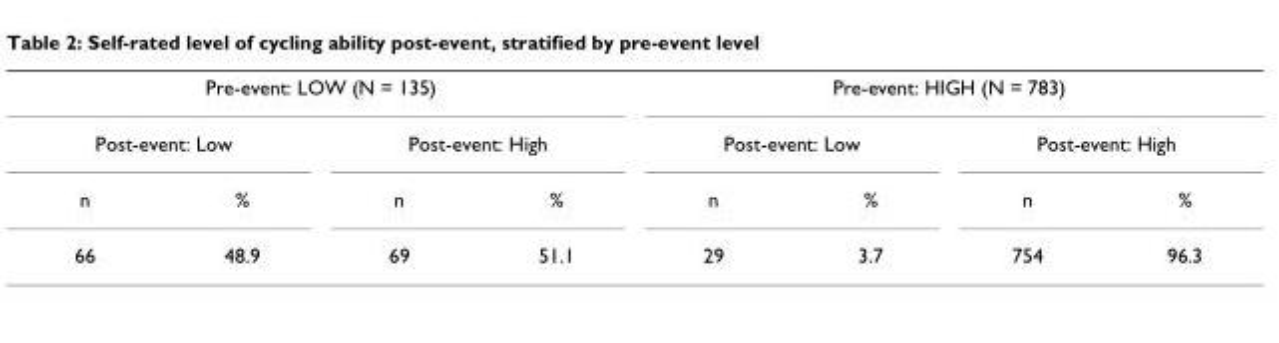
<table><tbody><tr><td colspan="4">Pre-event: LOW (N = 135)</td><td colspan="4">Pre-event: HIGH (N = 783)</td></tr><tr><td colspan="2">Post-event: Low</td><td colspan="2">Post-event: High</td><td colspan="2">Post-event: Low</td><td colspan="2">Post-event: High</td></tr><tr><td>n</td><td>%</td><td>n</td><td>%</td><td>n</td><td>%</td><td>n</td><td>%</td></tr><tr><td>66</td><td>48.9</td><td>69</td><td>51.1</td><td>29</td><td>3.7</td><td>754</td><td>96.3</td></tr></tbody></table>